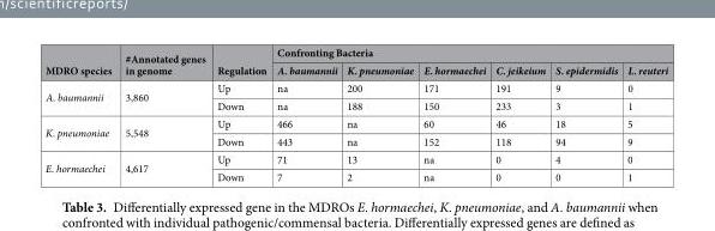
<table><thead><tr><td rowspan="2">MDRO species</td><td rowspan="2">#Annotated genes in genome</td><td rowspan="2">Regulation</td><td colspan="6">Confronting Bacteria</td></tr><tr><td>A. baumannii</td><td>K. pneumoniae</td><td>E. hormaechei</td><td>C. jeikeium</td><td>S. epidermidis</td><td>L. reuteri</td></tr></thead><tbody><tr><td rowspan="2">A. baumannii</td><td rowspan="2">3,860</td><td>Up</td><td>na</td><td>200</td><td>171</td><td>191</td><td>9</td><td>0</td></tr><tr><td>Down</td><td>na</td><td>188</td><td>150</td><td>233</td><td>3</td><td>1</td></tr><tr><td rowspan="2">K. pneumoniae</td><td rowspan="2">5,548</td><td>Up</td><td>466</td><td>na</td><td>60</td><td>46</td><td>18</td><td>5</td></tr><tr><td>Down</td><td>443</td><td>na</td><td>152</td><td>118</td><td>94</td><td>9</td></tr><tr><td rowspan="2">E. hormaechei</td><td rowspan="2">4,617</td><td>Up</td><td>71</td><td>13</td><td>na</td><td>0</td><td>4</td><td>0</td></tr><tr><td>Down</td><td>7</td><td>2</td><td>na</td><td>0</td><td>0</td><td>1</td></tr></tbody></table>